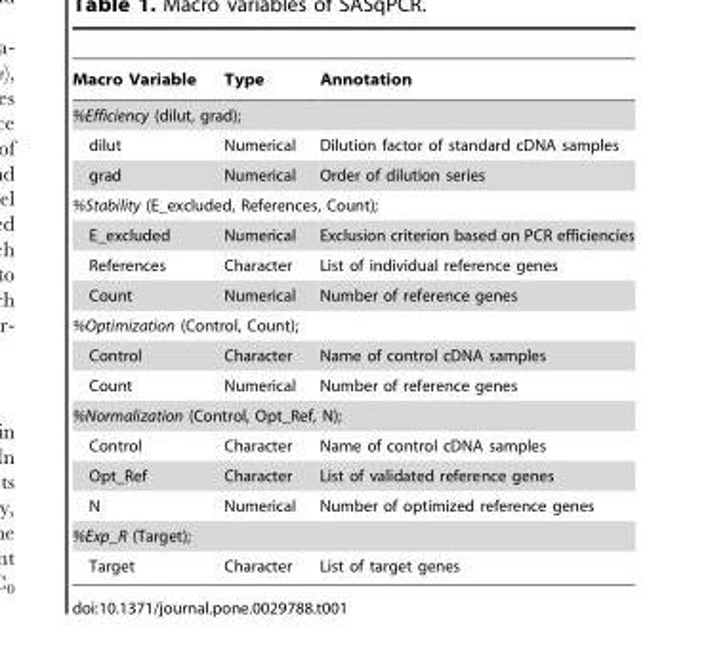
<table><thead><tr><td>Macro Variable</td><td>Type</td><td>Annotation</td></tr></thead><tbody><tr><td colspan="3">%Efficiency (dilut, grad);</td></tr><tr><td>dilut</td><td>Numerical</td><td>Dilution factor of standard cDNA samples</td></tr><tr><td>grad</td><td>Numerical</td><td>Order of dilution series</td></tr><tr><td colspan="3">%Stability (E_excluded, References, Count);</td></tr><tr><td>E_excluded</td><td>Numerical</td><td>Exclusion criterion based on PCR efficiencies</td></tr><tr><td>References</td><td>Character</td><td>List of individual reference genes</td></tr><tr><td>Count</td><td>Numerical</td><td>Number of reference genes</td></tr><tr><td colspan="3">%Optimization (Control, Count);</td></tr><tr><td>Control</td><td>Character</td><td>Name of control cDNA samples</td></tr><tr><td>Count</td><td>Numerical</td><td>Number of reference genes</td></tr><tr><td colspan="3">%Normalization (Control, Opt_Ref, N);</td></tr><tr><td>Control</td><td>Character</td><td>Name of control cDNA samples</td></tr><tr><td>Opt_Ref</td><td>Character</td><td>List of validated reference genes</td></tr><tr><td>N</td><td>Numerical</td><td>Number of optimized reference genes</td></tr><tr><td colspan="3">%Exp_R (Target);</td></tr><tr><td>Target</td><td>Character</td><td>List of target genes</td></tr></tbody></table>